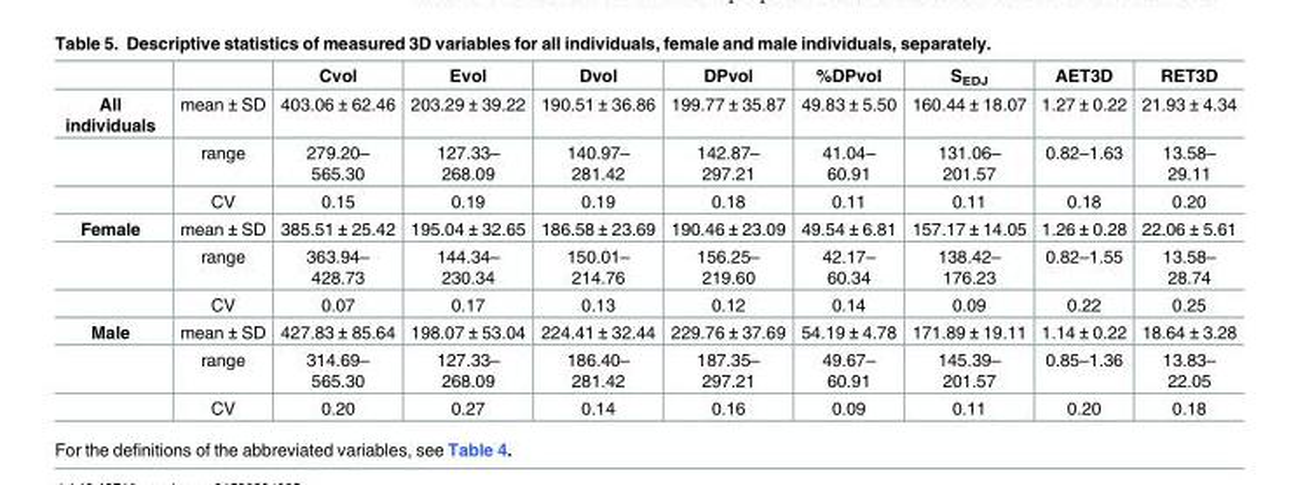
<table><thead><tr><td></td><td></td><td>Cvol</td><td>Evol</td><td>Dvol</td><td>DPvol</td><td>%DPvol</td><td>S<sub>EDJ</sub></td><td>AET3D</td><td>RET3D</td></tr></thead><tbody><tr><td rowspan="3">All individuals</td><td>mean ± SD</td><td>403.06 ± 62.46</td><td>203.29 ± 39.22</td><td>190.51 ± 36.86</td><td>199.77 ± 35.87</td><td>49.83 ± 5.50</td><td>160.44 ± 18.07</td><td>1.27 ± 0.22</td><td>21.93 ± 4.34</td></tr><tr><td>range</td><td>279.20– 565.30</td><td>127.33– 268.09</td><td>140.97– 281.42</td><td>142.87– 297.21</td><td>41.04– 60.91</td><td>131.06– 201.57</td><td>0.82–1.63</td><td>13.58– 29.11</td></tr><tr><td>CV</td><td>0.15</td><td>0.19</td><td>0.19</td><td>0.18</td><td>0.11</td><td>0.11</td><td>0.18</td><td>0.20</td></tr><tr><td rowspan="3">Female</td><td>mean ± SD</td><td>385.51 ± 25.42</td><td>195.04 ± 32.65</td><td>186.58 ± 23.69</td><td>190.46 ± 23.09</td><td>49.54 ± 6.81</td><td>157.17 ± 14.05</td><td>1.26 ± 0.28</td><td>22.06 ± 5.61</td></tr><tr><td>range</td><td>363.94– 428.73</td><td>144.34– 230.34</td><td>150.01– 214.76</td><td>156.25– 219.60</td><td>42.17– 60.34</td><td>138.42– 176.23</td><td>0.82–1.55</td><td>13.58– 28.74</td></tr><tr><td>CV</td><td>0.07</td><td>0.17</td><td>0.13</td><td>0.12</td><td>0.14</td><td>0.09</td><td>0.22</td><td>0.25</td></tr><tr><td rowspan="3">Male</td><td>mean ± SD</td><td>427.83 ± 85.64</td><td>198.07 ± 53.04</td><td>224.41 ± 32.44</td><td>229.76 ± 37.69</td><td>54.19 ± 4.78</td><td>171.89 ± 19.11</td><td>1.14 ± 0.22</td><td>18.64 ± 3.28</td></tr><tr><td>range</td><td>314.69– 565.30</td><td>127.33– 268.09</td><td>186.40– 281.42</td><td>187.35– 297.21</td><td>49.67– 60.91</td><td>145.39– 201.57</td><td>0.85–1.36</td><td>13.83– 22.05</td></tr><tr><td>CV</td><td>0.20</td><td>0.27</td><td>0.14</td><td>0.16</td><td>0.09</td><td>0.11</td><td>0.20</td><td>0.18</td></tr></tbody></table>